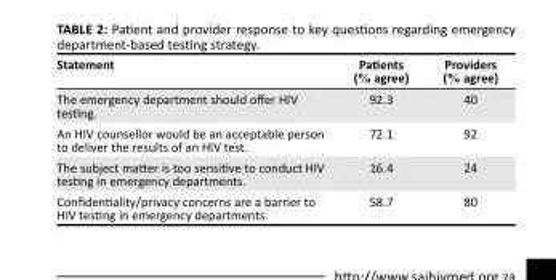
<table><thead><tr><td>Statement</td><td>Patients (% agree)</td><td>Providers (% agree)</td></tr></thead><tbody><tr><td>The emergency department should offer HIV testing.</td><td>92.3</td><td>40</td></tr><tr><td>An HIV counsellor would be an acceptable person to deliver the results of an HIV test.</td><td>72.1</td><td>92</td></tr><tr><td>The subject matter is too sensitive to conduct HIV testing in emergency departments.</td><td>16.4</td><td>24</td></tr><tr><td>Confidentiality/privacy concerns are a barrier to HIV testing in emergency departments.</td><td>58.7</td><td>80</td></tr></tbody></table>